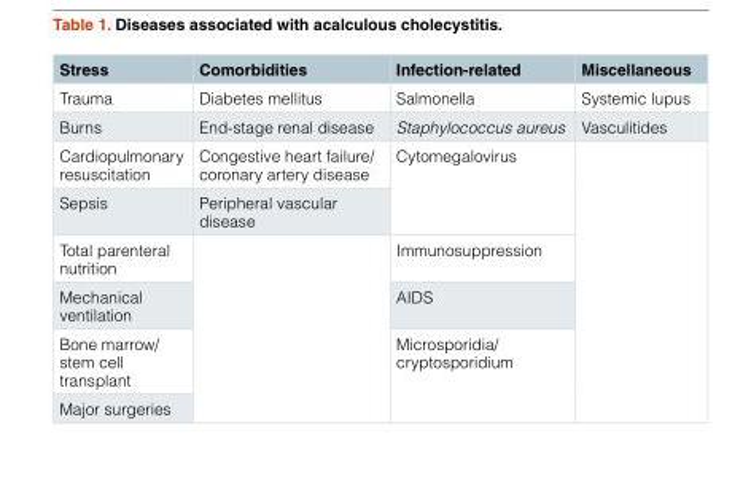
<table><thead><tr><td>Stress</td><td>Comorbidities</td><td>Infection-related</td><td>Miscellaneous</td></tr></thead><tbody><tr><td>Trauma</td><td>Diabetes mellitus</td><td>Salmonella</td><td>Systemic lupus</td></tr><tr><td>Burns</td><td>End-stage renal disease</td><td>Staphylococcus aureus</td><td>Vasculitides</td></tr><tr><td>Cardiopulmonary resuscitation</td><td>Congestive heart failure/ coronary artery disease</td><td rowspan="2">Cytomegalovirus</td><td rowspan="6"></td></tr><tr><td>Sepsis</td><td>Peripheral vascular disease</td></tr><tr><td>Total parenteral nutrition</td><td rowspan="4"></td><td>Immunosuppression</td></tr><tr><td>Mechanical ventilation</td><td>AIDS</td></tr><tr><td>Bone marrow/ stem cell transplant</td><td rowspan="2">Microsporidia/ cryptosporidium</td></tr><tr><td>Major surgeries</td></tr></tbody></table>